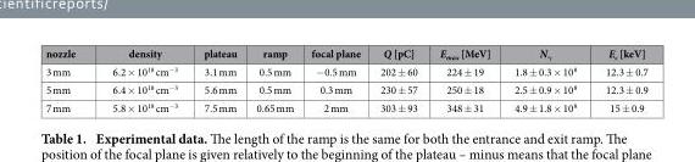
<table><thead><tr><td>nozzle</td><td>density</td><td>plateau</td><td>ramp</td><td>focal plane</td><td>Q [pC]</td><td>E<sub>max</sub> [MeV]</td><td>N<sub>γ</sub></td><td>E<sub>c</sub> [keV]</td></tr></thead><tbody><tr><td>3 mm</td><td>6.2 × 10<sup>18</sup> cm<sup>−3</sup></td><td>3.1 mm</td><td>0.5 mm</td><td>− 0.5 mm</td><td>202 ± 60</td><td>224 ± 19</td><td>1.8 ± 0.3 × 10<sup>8</sup></td><td>12.3 ± 0.7</td></tr><tr><td>5 mm</td><td>6.4 × 10<sup>18</sup> cm<sup>−3</sup></td><td>5.6 mm</td><td>0.5 mm</td><td>0.3 mm</td><td>230 ± 57</td><td>250 ± 18</td><td>2.5 ± 0.9 × 10<sup>8</sup></td><td>12.3 ± 0.9</td></tr><tr><td>7 mm</td><td>5.8 × 10<sup>18</sup> cm<sup>−3</sup></td><td>7.5 mm</td><td>0.65 mm</td><td>2 mm</td><td>303 ± 93</td><td>348 ± 31</td><td>4.9 ± 1.8 × 10<sup>8</sup></td><td>15 ± 0.9</td></tr></tbody></table>